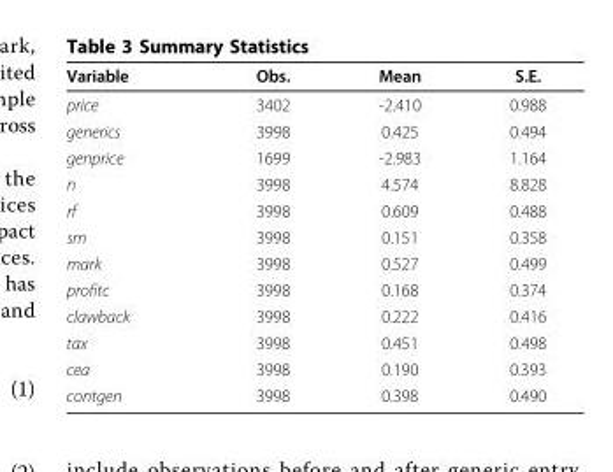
<table><thead><tr><td>Variable</td><td>Obs.</td><td>Mean</td><td>S.E.</td></tr></thead><tbody><tr><td>price</td><td>3402</td><td>-2.410</td><td>0.988</td></tr><tr><td>generics</td><td>3998</td><td>0.425</td><td>0.494</td></tr><tr><td>genprice</td><td>1699</td><td>-2.983</td><td>1.164</td></tr><tr><td>n</td><td>3998</td><td>4.574</td><td>8.828</td></tr><tr><td>rf</td><td>3998</td><td>0.609</td><td>0.488</td></tr><tr><td>sm</td><td>3998</td><td>0.151</td><td>0.358</td></tr><tr><td>mark</td><td>3998</td><td>0.527</td><td>0.499</td></tr><tr><td>profitc</td><td>3998</td><td>0.168</td><td>0.374</td></tr><tr><td>clawback</td><td>3998</td><td>0.222</td><td>0.416</td></tr><tr><td>tax</td><td>3998</td><td>0.451</td><td>0.498</td></tr><tr><td>cea</td><td>3998</td><td>0.190</td><td>0.393</td></tr><tr><td>contgen</td><td>3998</td><td>0.398</td><td>0.490</td></tr></tbody></table>